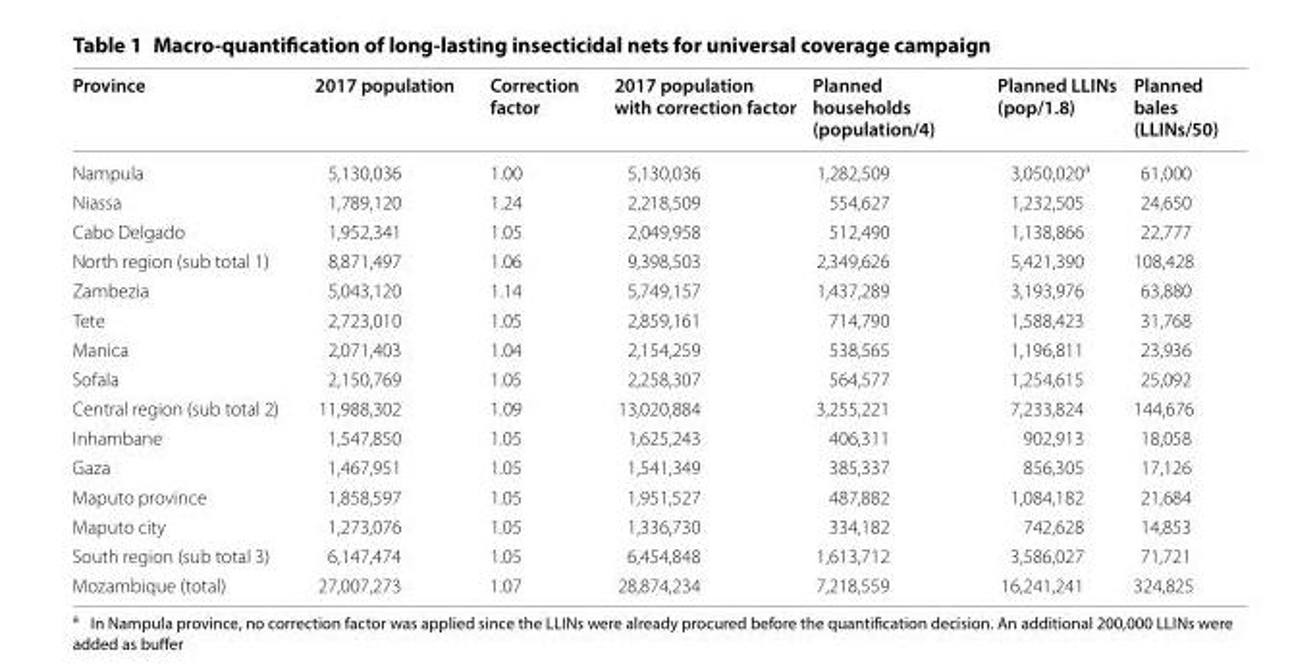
<table><thead><tr><td>Province</td><td>2017 population</td><td>Correction factor</td><td>2017 population with correction factor</td><td>Planned households (population/4)</td><td>Planned LLINs (pop/1.8)</td><td>Planned bales (LLINs/50)</td></tr></thead><tbody><tr><td>Nampula</td><td>5,130,036</td><td>1.00</td><td>5,130,036</td><td>1,282,509</td><td>3,050,020<sup>a</sup></td><td>61,000</td></tr><tr><td>Niassa</td><td>1,789,120</td><td>1.24</td><td>2,218,509</td><td>554,627</td><td>1,232,505</td><td>24,650</td></tr><tr><td>Cabo Delgado</td><td>1,952,341</td><td>1.05</td><td>2,049,958</td><td>512,490</td><td>1,138,866</td><td>22,777</td></tr><tr><td>North region (sub total 1)</td><td>8,871,497</td><td>1.06</td><td>9,398,503</td><td>2,349,626</td><td>5,421,390</td><td>108,428</td></tr><tr><td>Zambezia</td><td>5,043,120</td><td>1.14</td><td>5,749,157</td><td>1,437,289</td><td>3,193,976</td><td>63,880</td></tr><tr><td>Tete</td><td>2,723,010</td><td>1.05</td><td>2,859,161</td><td>714,790</td><td>1,588,423</td><td>31,768</td></tr><tr><td>Manica</td><td>2,071,403</td><td>1.04</td><td>2,154,259</td><td>538,565</td><td>1,196,811</td><td>23,936</td></tr><tr><td>Sofala</td><td>2,150,769</td><td>1.05</td><td>2,258,307</td><td>564,577</td><td>1,254,615</td><td>25,092</td></tr><tr><td>Central region (sub total 2)</td><td>11,988,302</td><td>1.09</td><td>13,020,884</td><td>3,255,221</td><td>7,233,824</td><td>144,676</td></tr><tr><td>Inhambane</td><td>1,547,850</td><td>1.05</td><td>1,625,243</td><td>406,311</td><td>902,913</td><td>18,058</td></tr><tr><td>Gaza</td><td>1,467,951</td><td>1.05</td><td>1,541,349</td><td>385,337</td><td>856,305</td><td>17,126</td></tr><tr><td>Maputo province</td><td>1,858,597</td><td>1.05</td><td>1,951,527</td><td>487,882</td><td>1,084,182</td><td>21,684</td></tr><tr><td>Maputo city</td><td>1,273,076</td><td>1.05</td><td>1,336,730</td><td>334,182</td><td>742,628</td><td>14,853</td></tr><tr><td>South region (sub total 3)</td><td>6,147,474</td><td>1.05</td><td>6,454,848</td><td>1,613,712</td><td>3,586,027</td><td>71,721</td></tr><tr><td>Mozambique (total)</td><td>27,007,273</td><td>1.07</td><td>28,874,234</td><td>7,218,559</td><td>16,241,241</td><td>324,825</td></tr></tbody></table>